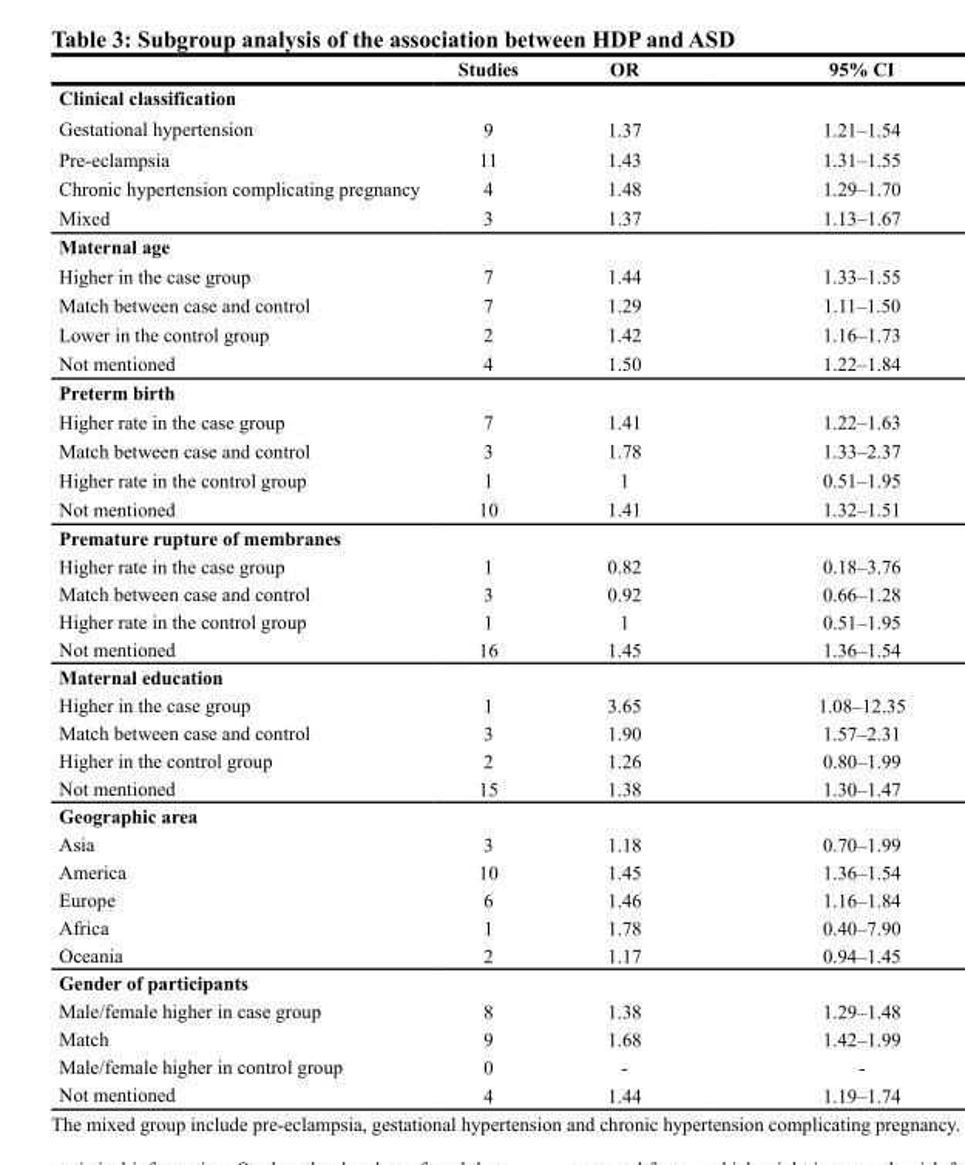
<table><thead><tr><td></td><td>Studies</td><td>OR</td><td>95% CI</td></tr></thead><tbody><tr><td colspan="4">Clinical classification</td></tr><tr><td>Gestational hypertension</td><td>9</td><td>1.37</td><td>1.21–1.54</td></tr><tr><td>Pre-eclampsia</td><td>11</td><td>1.43</td><td>1.31–1.55</td></tr><tr><td>Chronic hypertension complicating pregnancy</td><td>4</td><td>1.48</td><td>1.29–1.70</td></tr><tr><td>Mixed</td><td>3</td><td>1.37</td><td>1.13–1.67</td></tr><tr><td colspan="4">Maternal age</td></tr><tr><td>Higher in the case group</td><td>7</td><td>1.44</td><td>1.33–1.55</td></tr><tr><td>Match between case and control</td><td>7</td><td>1.29</td><td>1.11–1.50</td></tr><tr><td>Lower in the control group</td><td>2</td><td>1.42</td><td>1.16–1.73</td></tr><tr><td>Not mentioned</td><td>4</td><td>1.50</td><td>1.22–1.84</td></tr><tr><td colspan="4">Preterm birth</td></tr><tr><td>Higher rate in the case group</td><td>7</td><td>1.41</td><td>1.22–1.63</td></tr><tr><td>Match between case and control</td><td>3</td><td>1.78</td><td>1.33–2.37</td></tr><tr><td>Higher rate in the control group</td><td>1</td><td>1</td><td>0.51–1.95</td></tr><tr><td>Not mentioned</td><td>10</td><td>1.41</td><td>1.32–1.51</td></tr><tr><td colspan="4">Premature rupture of membranes</td></tr><tr><td>Higher rate in the case group</td><td>1</td><td>0.82</td><td>0.18–3.76</td></tr><tr><td>Match between case and control</td><td>3</td><td>0.92</td><td>0.66–1.28</td></tr><tr><td>Higher rate in the control group</td><td>1</td><td>1</td><td>0.51–1.95</td></tr><tr><td>Not mentioned</td><td>16</td><td>1.45</td><td>1.36–1.54</td></tr><tr><td colspan="4">Maternal education</td></tr><tr><td>Higher in the case group</td><td>1</td><td>3.65</td><td>1.08–12.35</td></tr><tr><td>Match between case and control</td><td>3</td><td>1.90</td><td>1.57–2.31</td></tr><tr><td>Higher in the control group</td><td>2</td><td>1.26</td><td>0.80–1.99</td></tr><tr><td>Not mentioned</td><td>15</td><td>1.38</td><td>1.30–1.47</td></tr><tr><td colspan="4">Geographic area</td></tr><tr><td>Asia</td><td>3</td><td>1.18</td><td>0.70–1.99</td></tr><tr><td>America</td><td>10</td><td>1.45</td><td>1.36–1.54</td></tr><tr><td>Europe</td><td>6</td><td>1.46</td><td>1.16–1.84</td></tr><tr><td>Africa</td><td>1</td><td>1.78</td><td>0.40–7.90</td></tr><tr><td>Oceania</td><td>2</td><td>1.17</td><td>0.94–1.45</td></tr><tr><td colspan="4">Gender of participants</td></tr><tr><td>Male/female higher in case group</td><td>8</td><td>1.38</td><td>1.29–1.48</td></tr><tr><td>Match</td><td>9</td><td>1.68</td><td>1.42–1.99</td></tr><tr><td>Male/female higher in control group</td><td>0</td><td>-</td><td>-</td></tr><tr><td>Not mentioned</td><td>4</td><td>1.44</td><td>1.19–1.74</td></tr></tbody></table>